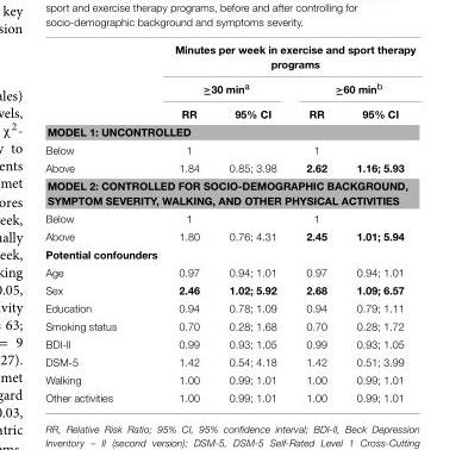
<table><thead><tr><td rowspan="3"></td><td colspan="4">Minutes per week in exercise and sport therapy programs</td></tr><tr><td colspan="2">≥30 min<sup>a</sup></td><td colspan="2">≥60 min<sup>b</sup></td></tr><tr><td>RR</td><td>95% CI</td><td>RR</td><td>95% CI</td></tr></thead><tbody><tr><td colspan="5">MODEL 1: UNCONTROLLED</td></tr><tr><td>Below</td><td>1</td><td></td><td>1</td><td></td></tr><tr><td>Above</td><td>1.84</td><td>0.85; 3.98</td><td>2.62</td><td>1.16; 5.93</td></tr><tr><td colspan="5">MODEL 2: CONTROLLED FOR SOCIO-DEMOGRAPHIC BACKGROUND, SYMPTOM SEVERITY, WALKING, AND OTHER PHYSICAL ACTIVITIES</td></tr><tr><td>Below</td><td>1</td><td></td><td>1</td><td></td></tr><tr><td>Above</td><td>1.80</td><td>0.76; 4.31</td><td>2.45</td><td>1.01; 5.94</td></tr><tr><td colspan="5">Potential confounders</td></tr><tr><td>Age</td><td>0.97</td><td>0.94; 1.01</td><td>0.97</td><td>0.94; 1.01</td></tr><tr><td>Sex</td><td>2.46</td><td>1.02; 5.92</td><td>2.68</td><td>1.09; 6.57</td></tr><tr><td>Education</td><td>0.94</td><td>0.78; 1.09</td><td>0.94</td><td>0.79; 1.11</td></tr><tr><td>Smoking status</td><td>0.70</td><td>0.28; 1.68</td><td>0.70</td><td>0.28; 1.72</td></tr><tr><td>BDI-II</td><td>0.99</td><td>0.93; 1.05</td><td>0.99</td><td>0.93; 1.05</td></tr><tr><td>DSM-5</td><td>1.42</td><td>0.54; 4.18</td><td>1.42</td><td>0.51; 3.99</td></tr><tr><td>Walking</td><td>1.00</td><td>0.99; 1.01</td><td>1.00</td><td>0.99; 1.01</td></tr><tr><td>Other activities</td><td>1.00</td><td>0.99; 1.01</td><td>1.00</td><td>0.99; 1.01</td></tr></tbody></table>